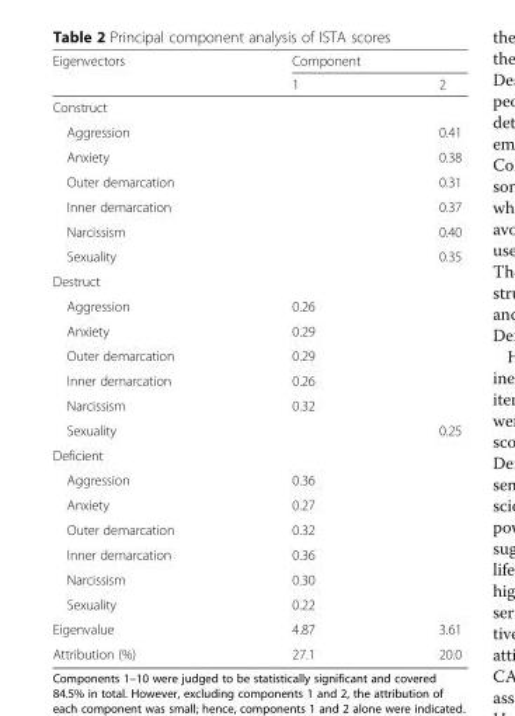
<table><thead><tr><td rowspan="2">Eigenvectors</td><td colspan="2">Component</td></tr><tr><td>1</td><td>2</td></tr></thead><tbody><tr><td colspan="3">Construct</td></tr><tr><td>Aggression</td><td></td><td>0.41</td></tr><tr><td>Anxiety</td><td></td><td>0.38</td></tr><tr><td>Outer demarcation</td><td></td><td>0.31</td></tr><tr><td>Inner demarcation</td><td></td><td>0.37</td></tr><tr><td>Narcissism</td><td></td><td>0.40</td></tr><tr><td>Sexuality</td><td></td><td>0.35</td></tr><tr><td colspan="3">Destruct</td></tr><tr><td>Aggression</td><td>0.26</td><td></td></tr><tr><td>Anxiety</td><td>0.29</td><td></td></tr><tr><td>Outer demarcation</td><td>0.29</td><td></td></tr><tr><td>Inner demarcation</td><td>0.26</td><td></td></tr><tr><td>Narcissism</td><td>0.32</td><td></td></tr><tr><td>Sexuality</td><td></td><td>0.25</td></tr><tr><td colspan="3">Deficient</td></tr><tr><td>Aggression</td><td>0.36</td><td></td></tr><tr><td>Anxiety</td><td>0.27</td><td></td></tr><tr><td>Outer demarcation</td><td>0.32</td><td></td></tr><tr><td>Inner demarcation</td><td>0.36</td><td></td></tr><tr><td>Narcissism</td><td>0.30</td><td></td></tr><tr><td>Sexuality</td><td>0.22</td><td></td></tr><tr><td>Eigenvalue</td><td>4.87</td><td>3.61</td></tr><tr><td>Attribution (%)</td><td>27.1</td><td>20.0</td></tr></tbody></table>